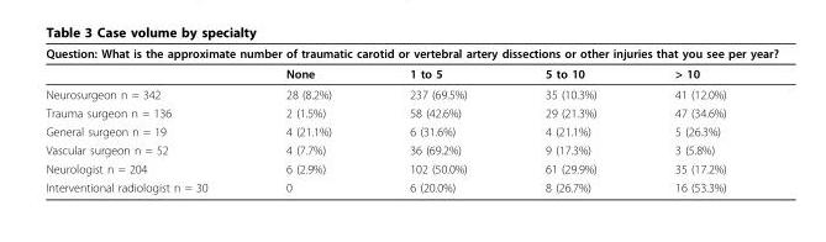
<table><thead><tr><td colspan="5">Question: What is the approximate number of traumatic carotid or vertebral artery dissections or other injuries that you see per year?</td></tr><tr><td></td><td>None</td><td>1 to 5</td><td>5 to 10</td><td>&gt; 10</td></tr></thead><tbody><tr><td>Neurosurgeon n = 342</td><td>28 (8.2%)</td><td>237 (69.5%)</td><td>35 (10.3%)</td><td>41 (12.0%)</td></tr><tr><td>Trauma surgeon n = 136</td><td>2 (1.5%)</td><td>58 (42.6%)</td><td>29 (21.3%)</td><td>47 (34.6%)</td></tr><tr><td>General surgeon n = 19</td><td>4 (21.1%)</td><td>6 (31.6%)</td><td>4 (21.1%)</td><td>5 (26.3%)</td></tr><tr><td>Vascular surgeon n = 52</td><td>4 (7.7%)</td><td>36 (69.2%)</td><td>9 (17.3%)</td><td>3 (5.8%)</td></tr><tr><td>Neurologist n = 204</td><td>6 (2.9%)</td><td>102 (50.0%)</td><td>61 (29.9%)</td><td>35 (17.2%)</td></tr><tr><td>Interventional radiologist n = 30</td><td>0</td><td>6 (20.0%)</td><td>8 (26.7%)</td><td>16 (53.3%)</td></tr></tbody></table>